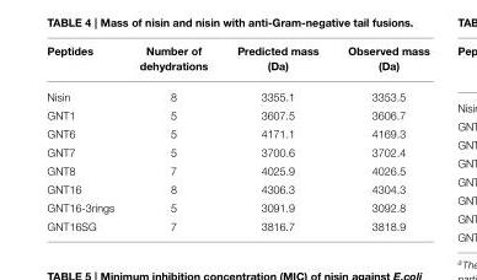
<table><thead><tr><td>Peptides</td><td>Number of dehydrations</td><td>Predicted mass (Da)</td><td>Observed mass (Da)</td></tr></thead><tbody><tr><td>Nisin</td><td>8</td><td>3355.1</td><td>3353.5</td></tr><tr><td>GNT1</td><td>5</td><td>3607.5</td><td>3606.7</td></tr><tr><td>GNT6</td><td>5</td><td>4171.1</td><td>4169.3</td></tr><tr><td>GNT7</td><td>5</td><td>3700.6</td><td>3702.4</td></tr><tr><td>GNT8</td><td>7</td><td>4025.9</td><td>4026.5</td></tr><tr><td>GNT16</td><td>8</td><td>4306.3</td><td>4304.3</td></tr><tr><td>GNT16-3rings</td><td>5</td><td>3091.9</td><td>3092.8</td></tr><tr><td>GNT16SG</td><td>7</td><td>3816.7</td><td>3818.9</td></tr></tbody></table>